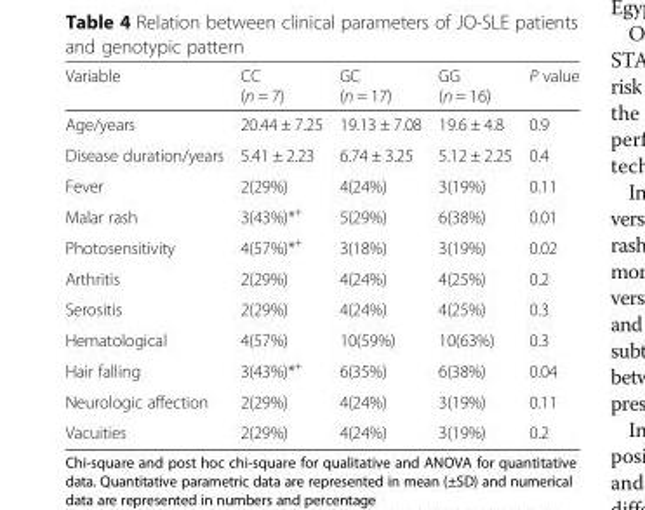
<table><thead><tr><td>Variable</td><td>CC (n = 7)</td><td>GC (n = 17)</td><td>GG (n = 16)</td><td>P value</td></tr></thead><tbody><tr><td>Age/years</td><td>20.44 ± 7.25</td><td>19.13 ± 7.08</td><td>19.6 ± 4.8</td><td>0.9</td></tr><tr><td>Disease duration/years</td><td>5.41 ± 2.23</td><td>6.74 ± 3.25</td><td>5.12 ± 2.25</td><td>0.4</td></tr><tr><td>Fever</td><td>2(29%)</td><td>4(24%)</td><td>3(19%)</td><td>0.11</td></tr><tr><td>Malar rash</td><td>3(43%)*<sup>+</sup></td><td>5(29%)</td><td>6(38%)</td><td>0.01</td></tr><tr><td>Photosensitivity</td><td>4(57%)*<sup>+</sup></td><td>3(18%)</td><td>3(19%)</td><td>0.02</td></tr><tr><td>Arthritis</td><td>2(29%)</td><td>4(24%)</td><td>4(25%)</td><td>0.2</td></tr><tr><td>Serositis</td><td>2(29%)</td><td>4(24%)</td><td>4(25%)</td><td>0.3</td></tr><tr><td>Hematological</td><td>4(57%)</td><td>10(59%)</td><td>10(63%)</td><td>0.3</td></tr><tr><td>Hair falling</td><td>3(43%)*<sup>+</sup></td><td>6(35%)</td><td>6(38%)</td><td>0.04</td></tr><tr><td>Neurologic affection</td><td>2(29%)</td><td>4(24%)</td><td>3(19%)</td><td>0.11</td></tr><tr><td>Vacuities</td><td>2(29%)</td><td>4(24%)</td><td>3(19%)</td><td>0.2</td></tr></tbody></table>